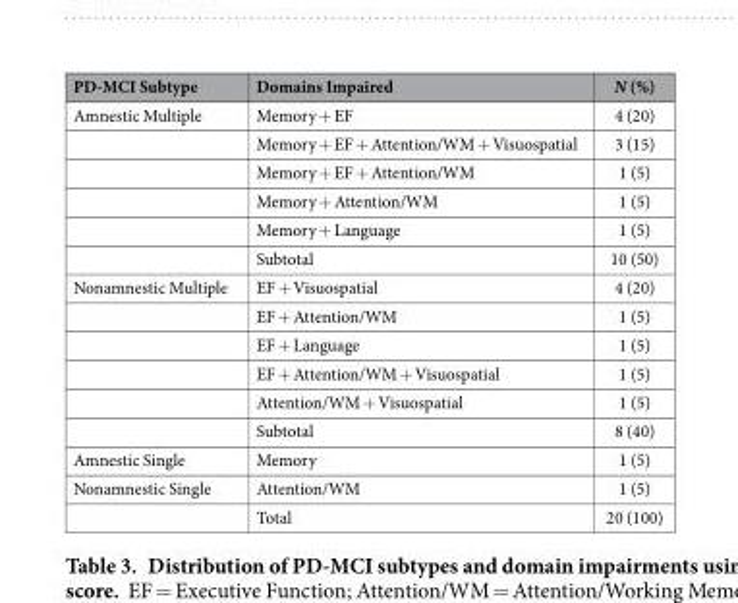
<table><thead><tr><td>PD-MCI Subtype</td><td>Domains Impaired</td><td>N (%)</td></tr></thead><tbody><tr><td rowspan="6">Amnestic Multiple</td><td>Memory + EF</td><td>4 (20)</td></tr><tr><td>Memory + EF + Attention/WM + Visuospatial</td><td>3 (15)</td></tr><tr><td>Memory + EF + Attention/WM</td><td>1 (5)</td></tr><tr><td>Memory + Attention/WM</td><td>1 (5)</td></tr><tr><td>Memory + Language</td><td>1 (5)</td></tr><tr><td>Subtotal</td><td>10 (50)</td></tr><tr><td rowspan="6">Nonamnestic Multiple</td><td>EF + Visuospatial</td><td>4 (20)</td></tr><tr><td>EF + Attention/WM</td><td>1 (5)</td></tr><tr><td>EF + Language</td><td>1 (5)</td></tr><tr><td>EF + Attention/WM + Visuospatial</td><td>1 (5)</td></tr><tr><td>Attention/WM + Visuospatial</td><td>1 (5)</td></tr><tr><td>Subtotal</td><td>8 (40)</td></tr><tr><td>Amnestic Single</td><td>Memory</td><td>1 (5)</td></tr><tr><td rowspan="2">Nonamnestic Single</td><td>Attention/WM</td><td>1 (5)</td></tr><tr><td>Total</td><td>20 (100)</td></tr></tbody></table>